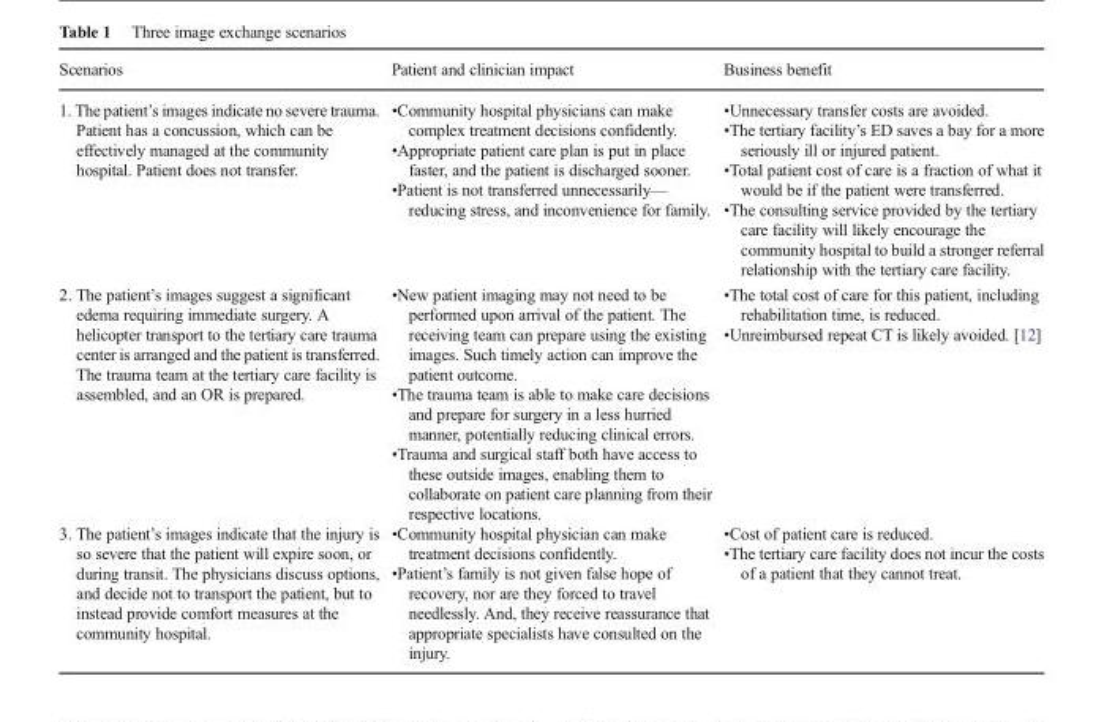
<table><thead><tr><td>Scenarios</td><td>Patient and clinician impact</td><td>Business benefit</td></tr></thead><tbody><tr><td>1. The patient’s images indicate no severe trauma. Patient has a concussion, which can be effectively managed at the community hospital. Patient does not transfer.</td><td>•Community hospital physicians can make complex treatment decisions confidently. •Appropriate patient care plan is put in place faster, and the patient is discharged sooner. •Patient is not transferred unnecessarily— reducing stress, and inconvenience for family.</td><td>•Unnecessary transfer costs are avoided. •The tertiary facility’s ED saves a bay for a more seriously ill or injured patient. •Total patient cost of care is a fraction of what it would be if the patient were transferred. •The consulting service provided by the tertiary care facility will likely encourage the community hospital to build a stronger referral relationship with the tertiary care facility.</td></tr><tr><td>2. The patient’s images suggest a significant edema requiring immediate surgery. A helicopter transport to the tertiary care trauma center is arranged and the patient is transferred. The trauma team at the tertiary care facility is assembled, and an OR is prepared.</td><td>•New patient imaging may not need to be performed upon arrival of the patient. The receiving team can prepare using the existing images. Such timely action can improve the patient outcome. •The trauma team is able to make care decisions and prepare for surgery in a less hurried manner, potentially reducing clinical errors. •Trauma and surgical staff both have access to these outside images, enabling them to collaborate on patient care planning from their respective locations.</td><td>•The total cost of care for this patient, including rehabilitation time, is reduced. •Unreimbursed repeat CT is likely avoided. [12]</td></tr><tr><td>3. The patient’s images indicate that the injury is so severe that the patient will expire soon, or during transit. The physicians discuss options, and decide not to transport the patient, but to instead provide comfort measures at the community hospital.</td><td>•Community hospital physician can make treatment decisions confidently. •Patient’s family is not given false hope of recovery, nor are they forced to travel needlessly. And, they receive reassurance that appropriate specialists have consulted on the injury.</td><td>•Cost of patient care is reduced. •The tertiary care facility does not incur the costs of a patient that they cannot treat.</td></tr></tbody></table>